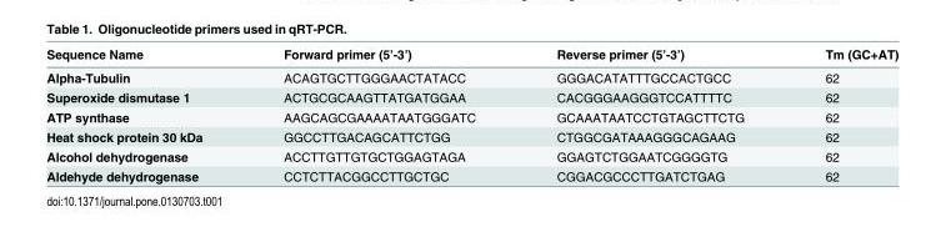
<table><thead><tr><td>Sequence Name</td><td>Forward primer (5’-3’)</td><td>Reverse primer (5’-3’)</td><td>Tm (GC+AT)</td></tr></thead><tbody><tr><td>Alpha-Tubulin</td><td>ACAGTGCTTGGGAACTATACC</td><td>GGGACATATTTGCCACTGCC</td><td>62</td></tr><tr><td>Superoxide dismutase 1</td><td>ACTGCGCAAGTTATGATGGAA</td><td>CACGGGAAGGGTCCATTTTC</td><td>62</td></tr><tr><td>ATP synthase</td><td>AAGCAGCGAAAATAATGGGATC</td><td>GCAAATAATCCTGTAGCTTCTG</td><td>62</td></tr><tr><td>Heat shock protein 30 kDa</td><td>GGCCTTGACAGCATTCTGG</td><td>CTGGCGATAAAGGGCAGAAG</td><td>62</td></tr><tr><td>Alcohol dehydrogenase</td><td>ACCTTGTTGTGCTGGAGTAGA</td><td>GGAGTCTGGAATCGGGGTG</td><td>62</td></tr><tr><td>Aldehyde dehydrogenase</td><td>CCTCTTACGGCCTTGCTGC</td><td>CGGACGCCCTTGATCTGAG</td><td>62</td></tr></tbody></table>